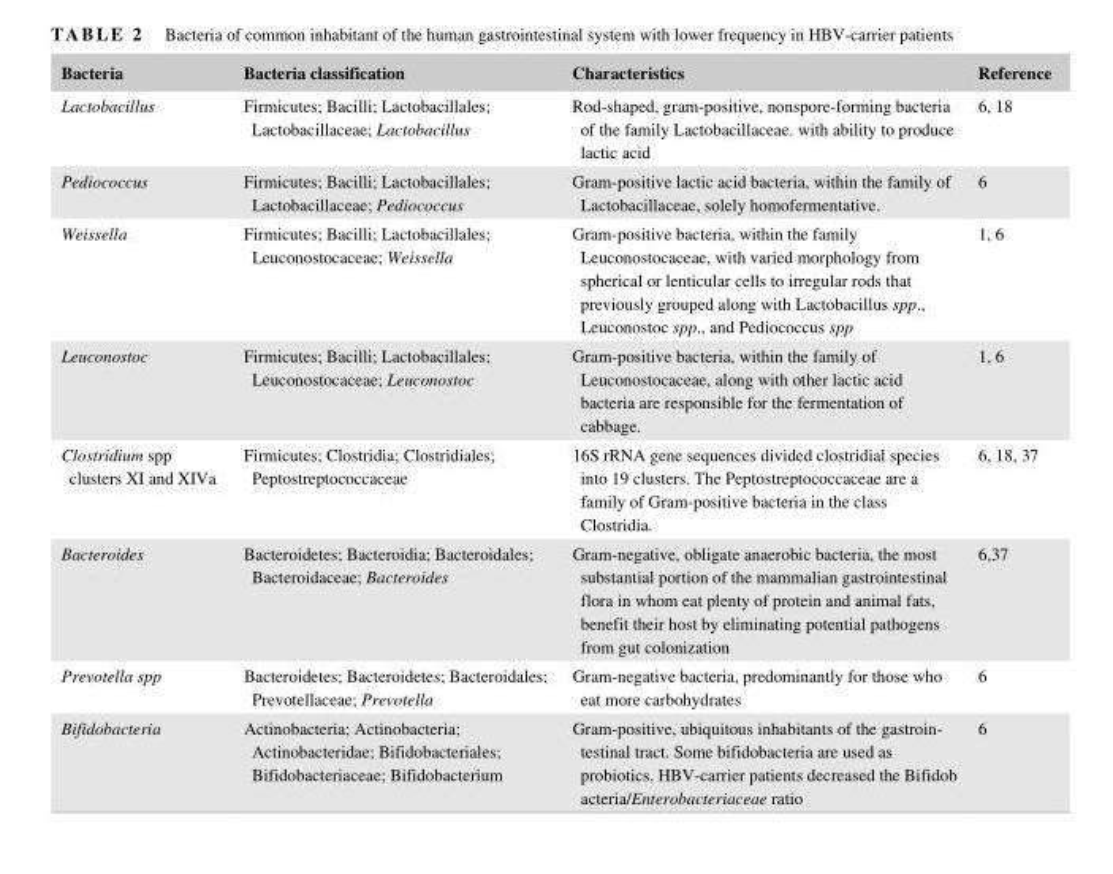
<table><thead><tr><td>Bacteria</td><td>Bacteria classification</td><td>Characteristics</td><td>Reference</td></tr></thead><tbody><tr><td>Lactobacillus</td><td>Firmicutes; Bacilli; Lactobacillales; Lactobacillaceae; Lactobacillus</td><td>Rod- shaped, gram- positive, nonspore- forming bacteria of the family Lactobacillaceae. with ability to produce lactic acid</td><td>6, 18</td></tr><tr><td>Pediococcus</td><td>Firmicutes; Bacilli; Lactobacillales; Lactobacillaceae; Pediococcus</td><td>Gram- positive lactic acid bacteria, within the family of Lactobacillaceae, solely homofermentative.</td><td>6</td></tr><tr><td>Weissella</td><td>Firmicutes; Bacilli; Lactobacillales; Leuconostocaceae; Weissella</td><td>Gram- positive bacteria, within the family Leuconostocaceae, with varied morphology from spherical or lenticular cells to irregular rods that previously grouped along with Lactobacillus spp., Leuconostoc spp., and Pediococcus spp</td><td>1, 6</td></tr><tr><td>Leuconostoc</td><td>Firmicutes; Bacilli; Lactobacillales; Leuconostocaceae; Leuconostoc</td><td>Gram- positive bacteria, within the family of Leuconostocaceae, along with other lactic acid bacteria are responsible for the fermentation of cabbage.</td><td>1, 6</td></tr><tr><td>Clostridium spp clusters XI and XIVa</td><td>Firmicutes; Clostridia; Clostridiales; Peptostreptococcaceae</td><td>16S rRNA gene sequences divided clostridial species into 19 clusters. The Peptostreptococcaceae are a family of Gram- positive bacteria in the class Clostridia.</td><td>6, 18, 37</td></tr><tr><td>Bacteroides</td><td>Bacteroidetes; Bacteroidia; Bacteroidales; Bacteroidaceae; Bacteroides</td><td>Gram- negative, obligate anaerobic bacteria, the most substantial portion of the mammalian gastrointestinal flora in whom eat plenty of protein and animal fats, benefit their host by eliminating potential pathogens from gut colonization</td><td>6,37</td></tr><tr><td>Prevotella spp</td><td>Bacteroidetes; Bacteroidetes; Bacteroidales; Prevotellaceae; Prevotella</td><td>Gram- negative bacteria, predominantly for those who eat more carbohydrates</td><td>6</td></tr><tr><td>Bifidobacteria</td><td>Actinobacteria; Actinobacteria; Actinobacteridae; Bifidobacteriales; Bifidobacteriaceae; Bifidobacterium</td><td>Gram- positive, ubiquitous inhabitants of the gastroin- testinal tract. Some bifidobacteria are used as probiotics. HBV- carrier patients decreased the Bifidob acteria/Enterobacteriaceae ratio</td><td>6</td></tr></tbody></table>